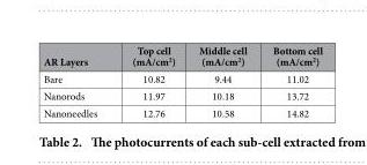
<table><thead><tr><td>AR Layers</td><td>Top cell (mA/cm<sup>2</sup>)</td><td>Middle cell (mA/cm<sup>2</sup>)</td><td>Bottom cell (mA/cm<sup>2</sup>)</td></tr></thead><tbody><tr><td>Bare</td><td>10.82</td><td>9.44</td><td>11.02</td></tr><tr><td>Nanorods</td><td>11.97</td><td>10.18</td><td>13.72</td></tr><tr><td>Nanoneedles</td><td>12.76</td><td>10.58</td><td>14.82</td></tr></tbody></table>